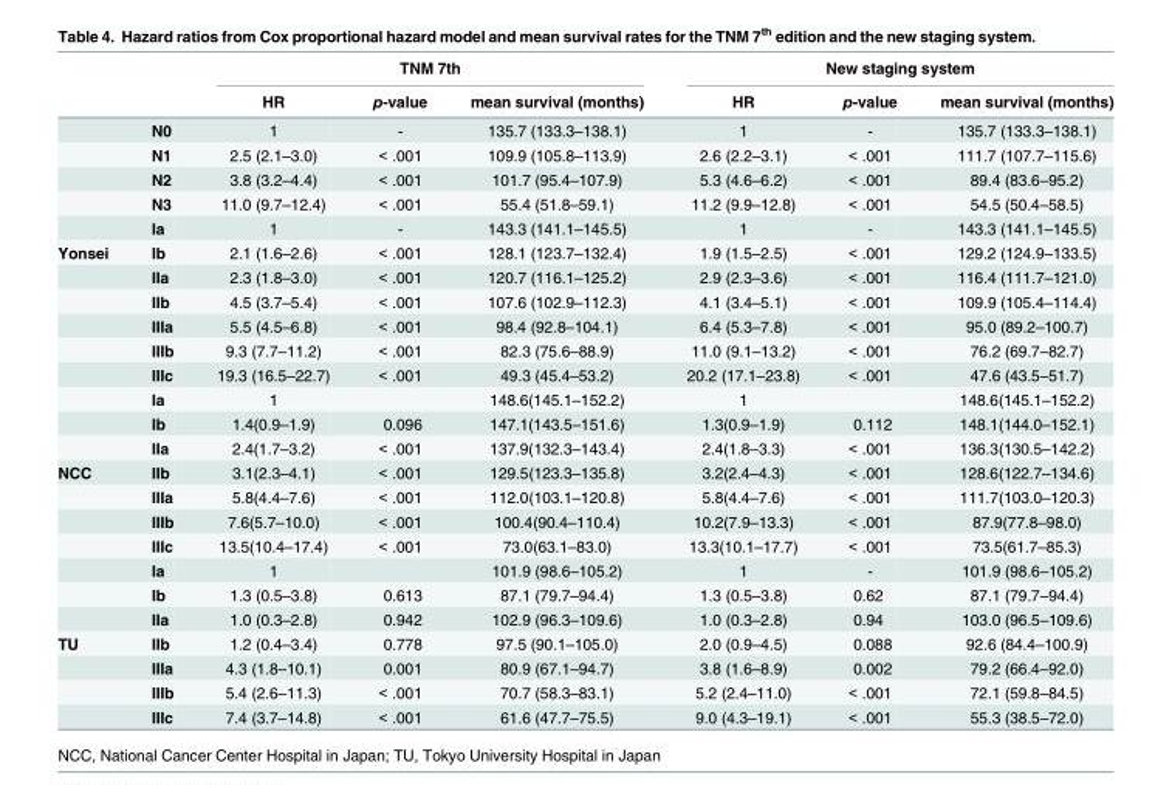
<table><thead><tr><td rowspan="2"></td><td rowspan="2"></td><td colspan="3">TNM 7th</td><td colspan="3">New staging system</td></tr><tr><td>HR</td><td>p-value</td><td>mean survival (months)</td><td>HR</td><td>p-value</td><td>mean survival (months)</td></tr></thead><tbody><tr><td></td><td>N0</td><td>1</td><td>-</td><td>135.7 (133.3–138.1)</td><td>1</td><td>-</td><td>135.7 (133.3–138.1)</td></tr><tr><td></td><td>N1</td><td>2.5 (2.1–3.0)</td><td>&lt; .001</td><td>109.9 (105.8–113.9)</td><td>2.6 (2.2–3.1)</td><td>&lt; .001</td><td>111.7 (107.7–115.6)</td></tr><tr><td></td><td>N2</td><td>3.8 (3.2–4.4)</td><td>&lt; .001</td><td>101.7 (95.4–107.9)</td><td>5.3 (4.6–6.2)</td><td>&lt; .001</td><td>89.4 (83.6–95.2)</td></tr><tr><td></td><td>N3</td><td>11.0 (9.7–12.4)</td><td>&lt; .001</td><td>55.4 (51.8–59.1)</td><td>11.2 (9.9–12.8)</td><td>&lt; .001</td><td>54.5 (50.4–58.5)</td></tr><tr><td></td><td>Ia</td><td>1</td><td>-</td><td>143.3 (141.1–145.5)</td><td>1</td><td>-</td><td>143.3 (141.1–145.5)</td></tr><tr><td rowspan="9">Yonsei</td><td>Ib</td><td>2.1 (1.6–2.6)</td><td>&lt; .001</td><td>128.1 (123.7–132.4)</td><td>1.9 (1.5–2.5)</td><td>&lt; .001</td><td>129.2 (124.9–133.5)</td></tr><tr><td>IIa</td><td>2.3 (1.8–3.0)</td><td>&lt; .001</td><td>120.7 (116.1–125.2)</td><td>2.9 (2.3–3.6)</td><td>&lt; .001</td><td>116.4 (111.7–121.0)</td></tr><tr><td>IIb</td><td>4.5 (3.7–5.4)</td><td>&lt; .001</td><td>107.6 (102.9–112.3)</td><td>4.1 (3.4–5.1)</td><td>&lt; .001</td><td>109.9 (105.4–114.4)</td></tr><tr><td>IIIa</td><td>5.5 (4.5–6.8)</td><td>&lt; .001</td><td>98.4 (92.8–104.1)</td><td>6.4 (5.3–7.8)</td><td>&lt; .001</td><td>95.0 (89.2–100.7)</td></tr><tr><td>IIIb</td><td>9.3 (7.7–11.2)</td><td>&lt; .001</td><td>82.3 (75.6–88.9)</td><td>11.0 (9.1–13.2)</td><td>&lt; .001</td><td>76.2 (69.7–82.7)</td></tr><tr><td>IIIc</td><td>19.3 (16.5–22.7)</td><td>&lt; .001</td><td>49.3 (45.4–53.2)</td><td>20.2 (17.1–23.8)</td><td>&lt; .001</td><td>47.6 (43.5–51.7)</td></tr><tr><td>Ia</td><td>1</td><td></td><td>148.6(145.1–152.2)</td><td>1</td><td></td><td>148.6(145.1–152.2)</td></tr><tr><td>Ib</td><td>1.4(0.9–1.9)</td><td>0.096</td><td>147.1(143.5–151.6)</td><td>1.3(0.9–1.9)</td><td>0.112</td><td>148.1(144.0–152.1)</td></tr><tr><td>IIa</td><td>2.4(1.7–3.2)</td><td>&lt; .001</td><td>137.9(132.3–143.4)</td><td>2.4(1.8–3.3)</td><td>&lt; .001</td><td>136.3(130.5–142.2)</td></tr><tr><td rowspan="7">NCC</td><td>IIb</td><td>3.1(2.3–4.1)</td><td>&lt; .001</td><td>129.5(123.3–135.8)</td><td>3.2(2.4–4.3)</td><td>&lt; .001</td><td>128.6(122.7–134.6)</td></tr><tr><td>IIIa</td><td>5.8(4.4–7.6)</td><td>&lt; .001</td><td>112.0(103.1–120.8)</td><td>5.8(4.4–7.6)</td><td>&lt; .001</td><td>111.7(103.0–120.3)</td></tr><tr><td>IIIb</td><td>7.6(5.7–10.0)</td><td>&lt; .001</td><td>100.4(90.4–110.4)</td><td>10.2(7.9–13.3)</td><td>&lt; .001</td><td>87.9(77.8–98.0)</td></tr><tr><td>IIIc</td><td>13.5(10.4–17.4)</td><td>&lt; .001</td><td>73.0(63.1–83.0)</td><td>13.3(10.1–17.7)</td><td>&lt; .001</td><td>73.5(61.7–85.3)</td></tr><tr><td>Ia</td><td>1</td><td></td><td>101.9 (98.6–105.2)</td><td>1</td><td>-</td><td>101.9 (98.6–105.2)</td></tr><tr><td>Ib</td><td>1.3 (0.5–3.8)</td><td>0.613</td><td>87.1 (79.7–94.4)</td><td>1.3 (0.5–3.8)</td><td>0.62</td><td>87.1 (79.7–94.4)</td></tr><tr><td>IIa</td><td>1.0 (0.3–2.8)</td><td>0.942</td><td>102.9 (96.3–109.6)</td><td>1.0 (0.3–2.8)</td><td>0.94</td><td>103.0 (96.5–109.6)</td></tr><tr><td rowspan="4">TU</td><td>IIb</td><td>1.2 (0.4–3.4)</td><td>0.778</td><td>97.5 (90.1–105.0)</td><td>2.0 (0.9–4.5)</td><td>0.088</td><td>92.6 (84.4–100.9)</td></tr><tr><td>IIIa</td><td>4.3 (1.8–10.1)</td><td>0.001</td><td>80.9 (67.1–94.7)</td><td>3.8 (1.6–8.9)</td><td>0.002</td><td>79.2 (66.4–92.0)</td></tr><tr><td>IIIb</td><td>5.4 (2.6–11.3)</td><td>&lt; .001</td><td>70.7 (58.3–83.1)</td><td>5.2 (2.4–11.0)</td><td>&lt; .001</td><td>72.1 (59.8–84.5)</td></tr><tr><td>IIIc</td><td>7.4 (3.7–14.8)</td><td>&lt; .001</td><td>61.6 (47.7–75.5)</td><td>9.0 (4.3–19.1)</td><td>&lt; .001</td><td>55.3 (38.5–72.0)</td></tr></tbody></table>